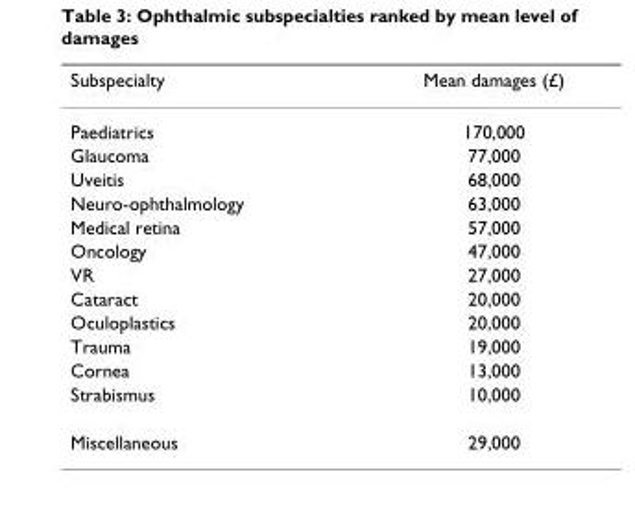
<table><thead><tr><td>Subspecialty</td><td>Mean damages (£)</td></tr></thead><tbody><tr><td>Paediatrics</td><td>170,000</td></tr><tr><td>Glaucoma</td><td>77,000</td></tr><tr><td>Uveitis</td><td>68,000</td></tr><tr><td>Neuro-ophthalmology</td><td>63,000</td></tr><tr><td>Medical retina</td><td>57,000</td></tr><tr><td>Oncology</td><td>47,000</td></tr><tr><td>VR</td><td>27,000</td></tr><tr><td>Cataract</td><td>20,000</td></tr><tr><td>Oculoplastics</td><td>20,000</td></tr><tr><td>Trauma</td><td>19,000</td></tr><tr><td>Cornea</td><td>13,000</td></tr><tr><td>Strabismus</td><td>10,000</td></tr><tr><td>Miscellaneous</td><td>29,000</td></tr></tbody></table>